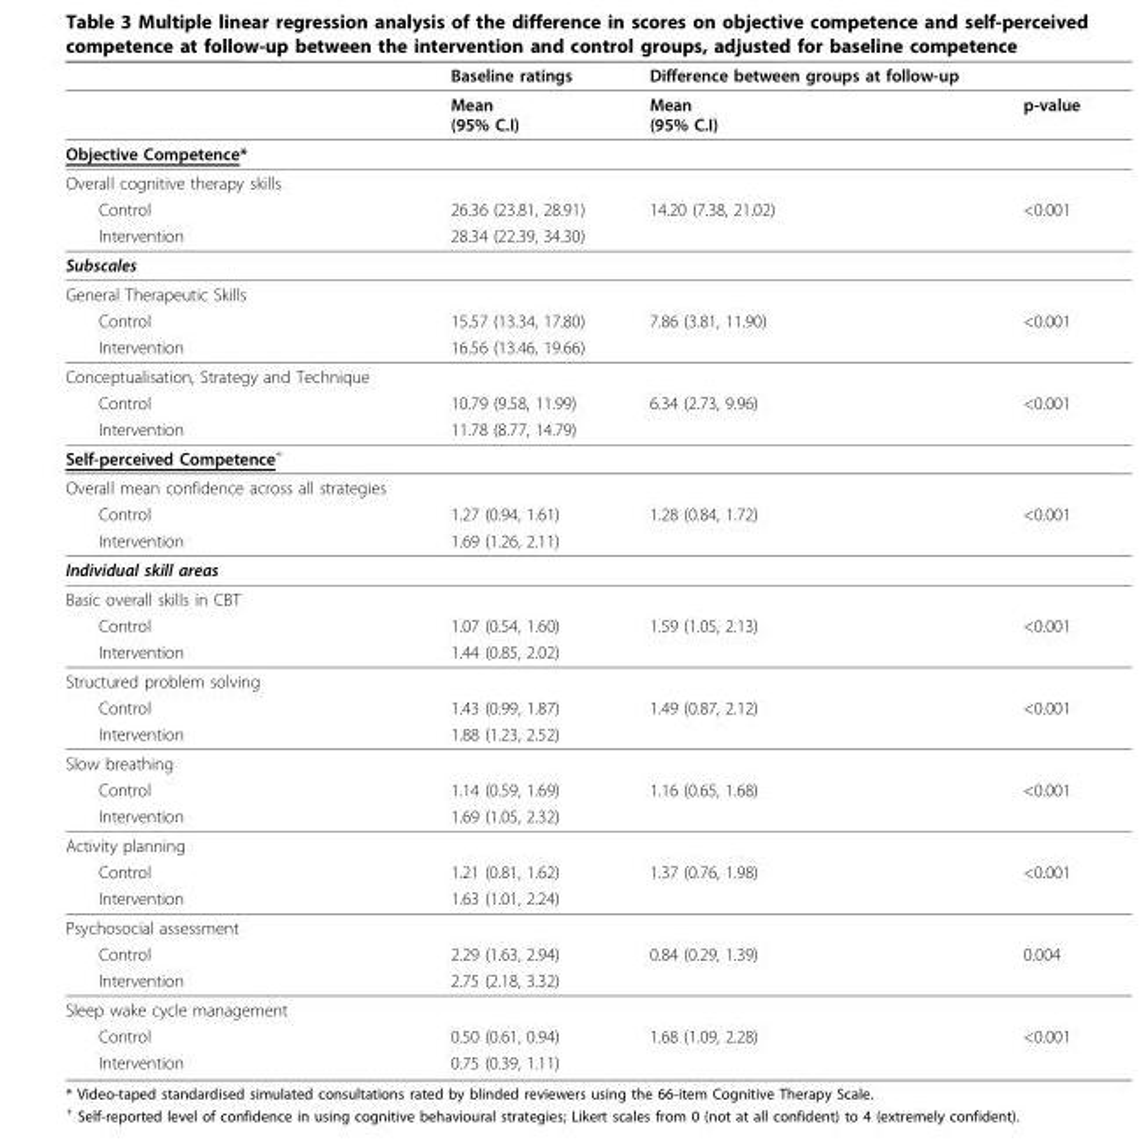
<table><thead><tr><td></td><td>Baseline ratings</td><td>Difference between groups at follow-up</td><td></td></tr></thead><tbody><tr><td></td><td>Mean (95% C.I)</td><td>Mean (95% C.I)</td><td>p-value</td></tr><tr><td colspan="4">Objective Competence*</td></tr><tr><td colspan="4">Overall cognitive therapy skills</td></tr><tr><td>Control</td><td>26.36 (23.81, 28.91)</td><td>14.20 (7.38, 21.02)</td><td>&lt;0.001</td></tr><tr><td>Intervention</td><td>28.34 (22.39, 34.30)</td><td></td><td></td></tr><tr><td colspan="4">Subscales</td></tr><tr><td colspan="4">General Therapeutic Skills</td></tr><tr><td>Control</td><td>15.57 (13.34, 17.80)</td><td>7.86 (3.81, 11.90)</td><td>&lt;0.001</td></tr><tr><td>Intervention</td><td>16.56 (13.46, 19.66)</td><td></td><td></td></tr><tr><td colspan="4">Conceptualisation, Strategy and Technique</td></tr><tr><td>Control</td><td>10.79 (9.58, 11.99)</td><td>6.34 (2.73, 9.96)</td><td>&lt;0.001</td></tr><tr><td>Intervention</td><td>11.78 (8.77, 14.79)</td><td></td><td></td></tr><tr><td colspan="4">Self-perceived Competence<sup>+</sup></td></tr><tr><td colspan="4">Overall mean confidence across all strategies</td></tr><tr><td>Control</td><td>1.27 (0.94, 1.61)</td><td>1.28 (0.84, 1.72)</td><td>&lt;0.001</td></tr><tr><td>Intervention</td><td>1.69 (1.26, 2.11)</td><td></td><td></td></tr><tr><td colspan="4">Individual skill areas</td></tr><tr><td colspan="4">Basic overall skills in CBT</td></tr><tr><td>Control</td><td>1.07 (0.54, 1.60)</td><td>1.59 (1.05, 2.13)</td><td>&lt;0.001</td></tr><tr><td>Intervention</td><td>1.44 (0.85, 2.02)</td><td></td><td></td></tr><tr><td colspan="4">Structured problem solving</td></tr><tr><td>Control</td><td>1.43 (0.99, 1.87)</td><td>1.49 (0.87, 2.12)</td><td>&lt;0.001</td></tr><tr><td>Intervention</td><td>1.88 (1.23, 2.52)</td><td></td><td></td></tr><tr><td colspan="4">Slow breathing</td></tr><tr><td>Control</td><td>1.14 (0.59, 1.69)</td><td>1.16 (0.65, 1.68)</td><td>&lt;0.001</td></tr><tr><td>Intervention</td><td>1.69 (1.05, 2.32)</td><td></td><td></td></tr><tr><td colspan="4">Activity planning</td></tr><tr><td>Control</td><td>1.21 (0.81, 1.62)</td><td>1.37 (0.76, 1.98)</td><td>&lt;0.001</td></tr><tr><td>Intervention</td><td>1.63 (1.01, 2.24)</td><td></td><td></td></tr><tr><td colspan="4">Psychosocial assessment</td></tr><tr><td>Control</td><td>2.29 (1.63, 2.94)</td><td>0.84 (0.29, 1.39)</td><td>0.004</td></tr><tr><td>Intervention</td><td>2.75 (2.18, 3.32)</td><td></td><td></td></tr><tr><td colspan="4">Sleep wake cycle management</td></tr><tr><td>Control</td><td>0.50 (0.61, 0.94)</td><td>1.68 (1.09, 2.28)</td><td>&lt;0.001</td></tr><tr><td>Intervention</td><td>0.75 (0.39, 1.11)</td><td></td><td></td></tr></tbody></table>